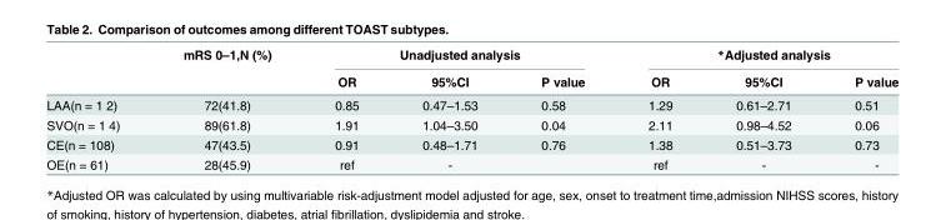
<table><thead><tr><td rowspan="2"></td><td rowspan="2">mRS 0–1,N (%)</td><td colspan="3">Unadjusted analysis</td><td colspan="3">*Adjusted analysis</td></tr><tr><td>OR</td><td>95%CI</td><td>P value</td><td>OR</td><td>95%CI</td><td>P value</td></tr></thead><tbody><tr><td>LAA(n = 1 2)</td><td>72(41.8)</td><td>0.85</td><td>0.47–1.53</td><td>0.58</td><td>1.29</td><td>0.61–2.71</td><td>0.51</td></tr><tr><td>SVO(n = 1 4)</td><td>89(61.8)</td><td>1.91</td><td>1.04–3.50</td><td>0.04</td><td>2.11</td><td>0.98–4.52</td><td>0.06</td></tr><tr><td>CE(n = 108)</td><td>47(43.5)</td><td>0.91</td><td>0.48–1.71</td><td>0.76</td><td>1.38</td><td>0.51–3.73</td><td>0.73</td></tr><tr><td>OE(n = 61)</td><td>28(45.9)</td><td>ref</td><td>-</td><td></td><td>ref</td><td>-</td><td>-</td></tr></tbody></table>